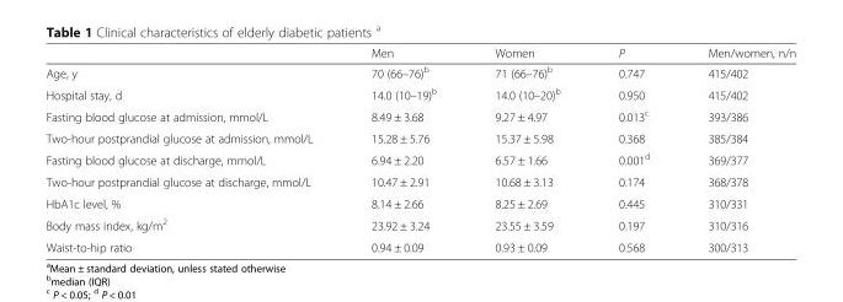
<table><thead><tr><td></td><td>Men</td><td>Women</td><td>P</td><td>Men/women, n/n</td></tr></thead><tbody><tr><td>Age, y</td><td>70 (66–76)<sup>b</sup></td><td>71 (66–76)<sup>b</sup></td><td>0.747</td><td>415/402</td></tr><tr><td>Hospital stay, d</td><td>14.0 (10–19)<sup>b</sup></td><td>14.0 (10–20)<sup>b</sup></td><td>0.950</td><td>415/402</td></tr><tr><td>Fasting blood glucose at admission, mmol/L</td><td>8.49 ± 3.68</td><td>9.27 ± 4.97</td><td>0.013<sup>c</sup></td><td>393/386</td></tr><tr><td>Two-hour postprandial glucose at admission, mmol/L</td><td>15.28 ± 5.76</td><td>15.37 ± 5.98</td><td>0.368</td><td>385/384</td></tr><tr><td>Fasting blood glucose at discharge, mmol/L</td><td>6.94 ± 2.20</td><td>6.57 ± 1.66</td><td>0.001<sup>d</sup></td><td>369/377</td></tr><tr><td>Two-hour postprandial glucose at discharge, mmol/L</td><td>10.47 ± 2.91</td><td>10.68 ± 3.13</td><td>0.174</td><td>368/378</td></tr><tr><td>HbA1c level, %</td><td>8.14 ± 2.66</td><td>8.25 ± 2.69</td><td>0.445</td><td>310/331</td></tr><tr><td>Body mass index, kg/m<sup>2</sup></td><td>23.92 ± 3.24</td><td>23.55 ± 3.59</td><td>0.197</td><td>310/316</td></tr><tr><td>Waist-to-hip ratio</td><td>0.94 ± 0.09</td><td>0.93 ± 0.09</td><td>0.568</td><td>300/313</td></tr></tbody></table>